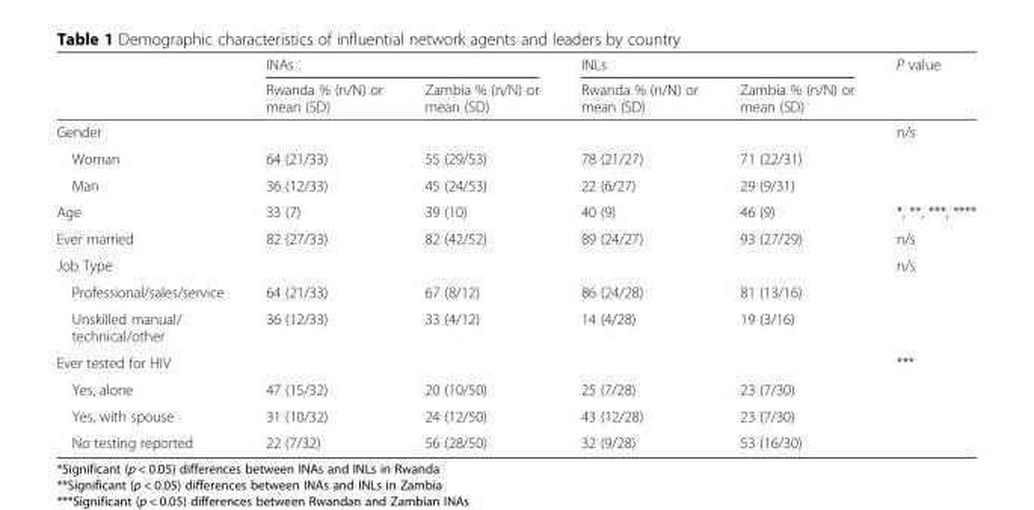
<table><thead><tr><td rowspan="2"></td><td colspan="2">INAs</td><td colspan="2">INLs</td><td rowspan="2">P value</td></tr><tr><td>Rwanda % (n/N) or mean (SD)</td><td>Zambia % (n/N) or mean (SD)</td><td>Rwanda % (n/N) or mean (SD)</td><td>Zambia % (n/N) or mean (SD)</td></tr></thead><tbody><tr><td colspan="5">Gender</td><td rowspan="3">n/s</td></tr><tr><td>Woman</td><td>64 (21/33)</td><td>55 (29/53)</td><td>78 (21/27)</td><td>71 (22/31)</td></tr><tr><td>Man</td><td>36 (12/33)</td><td>45 (24/53)</td><td>22 (6/27)</td><td>29 (9/31)</td></tr><tr><td>Age</td><td>33 (7)</td><td>39 (10)</td><td>40 (9)</td><td>46 (9)</td><td>*, **, ***, ****</td></tr><tr><td>Ever married</td><td>82 (27/33)</td><td>82 (42/52)</td><td>89 (24/27)</td><td>93 (27/29)</td><td>n/s</td></tr><tr><td colspan="5">Job Type</td><td rowspan="3">n/s</td></tr><tr><td>Professional/sales/service</td><td>64 (21/33)</td><td>67 (8/12)</td><td>86 (24/28)</td><td>81 (13/16)</td></tr><tr><td>Unskilled manual/ technical/other</td><td>36 (12/33)</td><td>33 (4/12)</td><td>14 (4/28)</td><td>19 (3/16)</td></tr><tr><td colspan="5">Ever tested for HIV</td><td rowspan="4">***</td></tr><tr><td>Yes, alone</td><td>47 (15/32)</td><td>20 (10/50)</td><td>25 (7/28)</td><td>23 (7/30)</td></tr><tr><td>Yes, with spouse</td><td>31 (10/32)</td><td>24 (12/50)</td><td>43 (12/28)</td><td>23 (7/30)</td></tr><tr><td>No testing reported</td><td>22 (7/32)</td><td>56 (28/50)</td><td>32 (9/28)</td><td>53 (16/30)</td></tr></tbody></table>